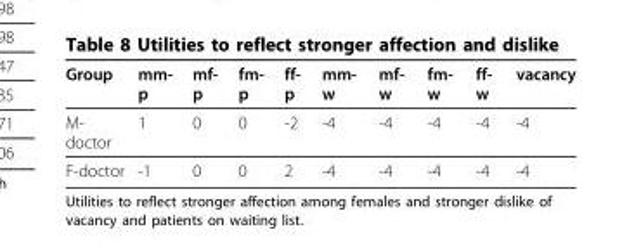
<table><thead><tr><td>Group</td><td>mm- p</td><td>mf- p</td><td>fm- p</td><td>ff- p</td><td>mm- w</td><td>mf- w</td><td>fm- w</td><td>ff- w</td><td>vacancy</td></tr></thead><tbody><tr><td>M- doctor</td><td>1</td><td>0</td><td>0</td><td>-2</td><td>-4</td><td>-4</td><td>-4</td><td>-4</td><td>-4</td></tr><tr><td>F-doctor</td><td>-1</td><td>0</td><td>0</td><td>2</td><td>-4</td><td>-4</td><td>-4</td><td>-4</td><td>-4</td></tr></tbody></table>